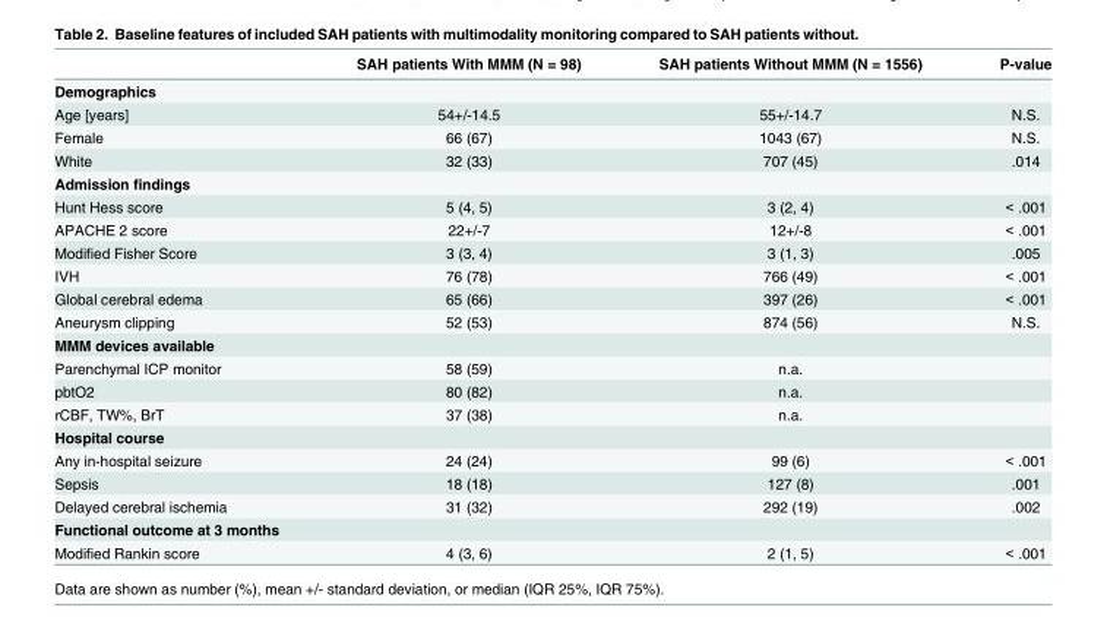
<table><thead><tr><td></td><td>SAH patients With MMM (N = 98)</td><td>SAH patients Without MMM (N = 1556)</td><td>P-value</td></tr></thead><tbody><tr><td colspan="4">Demographics</td></tr><tr><td>Age [years]</td><td>54+/-14.5</td><td>55+/-14.7</td><td>N.S.</td></tr><tr><td>Female</td><td>66 (67)</td><td>1043 (67)</td><td>N.S.</td></tr><tr><td>White</td><td>32 (33)</td><td>707 (45)</td><td>.014</td></tr><tr><td colspan="4">Admission findings</td></tr><tr><td>Hunt Hess score</td><td>5 (4, 5)</td><td>3 (2, 4)</td><td>&lt; .001</td></tr><tr><td>APACHE 2 score</td><td>22+/-7</td><td>12+/-8</td><td>&lt; .001</td></tr><tr><td>Modified Fisher Score</td><td>3 (3, 4)</td><td>3 (1, 3)</td><td>.005</td></tr><tr><td>IVH</td><td>76 (78)</td><td>766 (49)</td><td>&lt; .001</td></tr><tr><td>Global cerebral edema</td><td>65 (66)</td><td>397 (26)</td><td>&lt; .001</td></tr><tr><td>Aneurysm clipping</td><td>52 (53)</td><td>874 (56)</td><td>N.S.</td></tr><tr><td colspan="4">MMM devices available</td></tr><tr><td>Parenchymal ICP monitor</td><td>58 (59)</td><td>n.a.</td><td></td></tr><tr><td>pbtO2</td><td>80 (82)</td><td>n.a.</td><td></td></tr><tr><td>rCBF, TW%, BrT</td><td>37 (38)</td><td>n.a.</td><td></td></tr><tr><td colspan="4">Hospital course</td></tr><tr><td>Any in-hospital seizure</td><td>24 (24)</td><td>99 (6)</td><td>&lt; .001</td></tr><tr><td>Sepsis</td><td>18 (18)</td><td>127 (8)</td><td>.001</td></tr><tr><td>Delayed cerebral ischemia</td><td>31 (32)</td><td>292 (19)</td><td>.002</td></tr><tr><td colspan="4">Functional outcome at 3 months</td></tr><tr><td>Modified Rankin score</td><td>4 (3, 6)</td><td>2 (1, 5)</td><td>&lt; .001</td></tr></tbody></table>